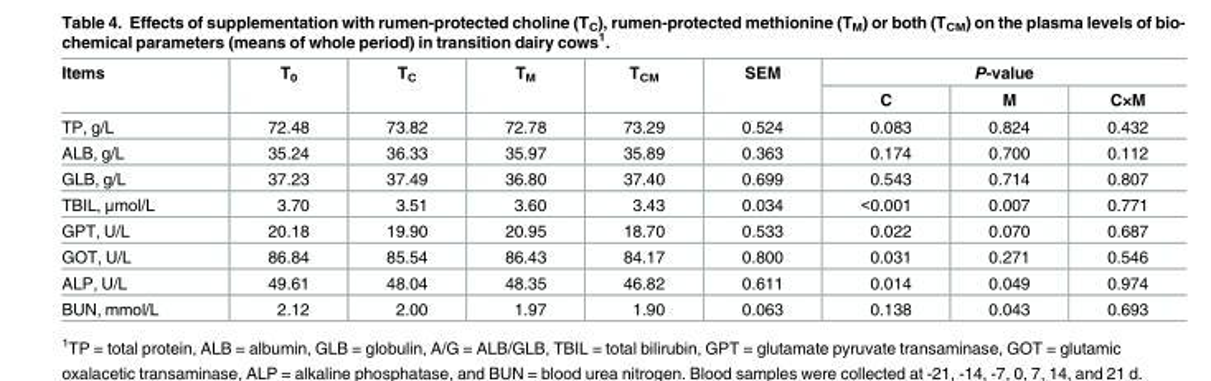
<table><thead><tr><td rowspan="2">Items</td><td rowspan="2">T<sub>0</sub></td><td rowspan="2">T<sub>C</sub></td><td rowspan="2">T<sub>M</sub></td><td rowspan="2">T<sub>CM</sub></td><td rowspan="2">SEM</td><td colspan="3">P-value</td></tr><tr><td>C</td><td>M</td><td>C×M</td></tr></thead><tbody><tr><td>TP, g/L</td><td>72.48</td><td>73.82</td><td>72.78</td><td>73.29</td><td>0.524</td><td>0.083</td><td>0.824</td><td>0.432</td></tr><tr><td>ALB, g/L</td><td>35.24</td><td>36.33</td><td>35.97</td><td>35.89</td><td>0.363</td><td>0.174</td><td>0.700</td><td>0.112</td></tr><tr><td>GLB, g/L</td><td>37.23</td><td>37.49</td><td>36.80</td><td>37.40</td><td>0.699</td><td>0.543</td><td>0.714</td><td>0.807</td></tr><tr><td>TBIL, μmol/L</td><td>3.70</td><td>3.51</td><td>3.60</td><td>3.43</td><td>0.034</td><td>&lt;0.001</td><td>0.007</td><td>0.771</td></tr><tr><td>GPT, U/L</td><td>20.18</td><td>19.90</td><td>20.95</td><td>18.70</td><td>0.533</td><td>0.022</td><td>0.070</td><td>0.687</td></tr><tr><td>GOT, U/L</td><td>86.84</td><td>85.54</td><td>86.43</td><td>84.17</td><td>0.800</td><td>0.031</td><td>0.271</td><td>0.546</td></tr><tr><td>ALP, U/L</td><td>49.61</td><td>48.04</td><td>48.35</td><td>46.82</td><td>0.611</td><td>0.014</td><td>0.049</td><td>0.974</td></tr><tr><td>BUN, mmol/L</td><td>2.12</td><td>2.00</td><td>1.97</td><td>1.90</td><td>0.063</td><td>0.138</td><td>0.043</td><td>0.693</td></tr></tbody></table>